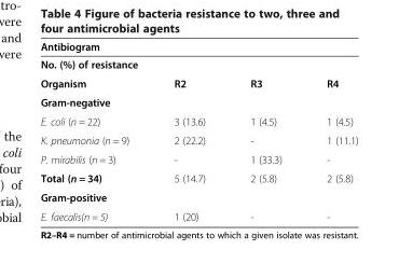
<table><thead><tr><td rowspan="2" colspan="4">Antibiogram No. (%) of resistance</td></tr><tr></tr><tr><td>Organism</td><td>R2</td><td>R3</td><td>R4</td></tr></thead><tbody><tr><td colspan="4">Gram-negative</td></tr><tr><td>E. coli (n = 22)</td><td>3 (13.6)</td><td>1 (4.5)</td><td>1 (4.5)</td></tr><tr><td>K. pneumonia (n = 9)</td><td>2 (22.2)</td><td>-</td><td>1 (11.1)</td></tr><tr><td>P. mirabilis (n = 3)</td><td>-</td><td>1 (33.3)</td><td>-</td></tr><tr><td>Total (n = 34)</td><td>5 (14.7)</td><td>2 (5.8)</td><td>2 (5.8)</td></tr><tr><td colspan="4">Gram-positive</td></tr><tr><td>E. faecalis(n = 5)</td><td>1 (20)</td><td>-</td><td>-</td></tr></tbody></table>